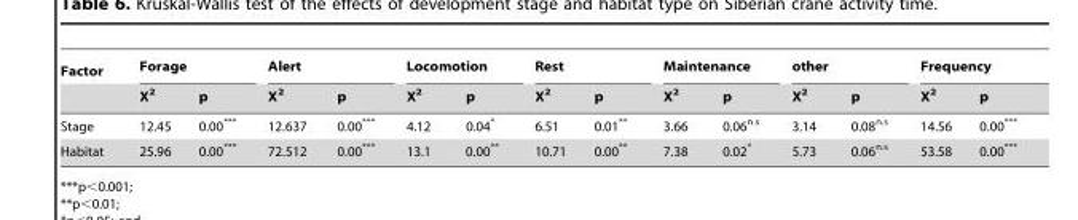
<table><thead><tr><td rowspan="2">Factor</td><td colspan="2">Forage</td><td colspan="2">Alert</td><td colspan="2">Locomotion</td><td colspan="2">Rest</td><td colspan="2">Maintenance</td><td colspan="2">other</td><td colspan="2">Frequency</td></tr><tr><td>X<sup>2</sup></td><td>p</td><td>X<sup>2</sup></td><td>p</td><td>X<sup>2</sup></td><td>p</td><td>X<sup>2</sup></td><td>p</td><td>X<sup>2</sup></td><td>p</td><td>X<sup>2</sup></td><td>p</td><td>X<sup>2</sup></td><td>p</td></tr></thead><tbody><tr><td>Stage</td><td>12.45</td><td>0.00***</td><td>12.637</td><td>0.00***</td><td>4.12</td><td>0.04*</td><td>6.51</td><td>0.01**</td><td>3.66</td><td>0.06n.s</td><td>3.14</td><td>0.08n.s</td><td>14.56</td><td>0.00***</td></tr><tr><td>Habitat</td><td>25.96</td><td>0.00***</td><td>72.512</td><td>0.00***</td><td>13.1</td><td>0.00**</td><td>10.71</td><td>0.00**</td><td>7.38</td><td>0.02*</td><td>5.73</td><td>0.06n.s</td><td>53.58</td><td>0.00***</td></tr></tbody></table>